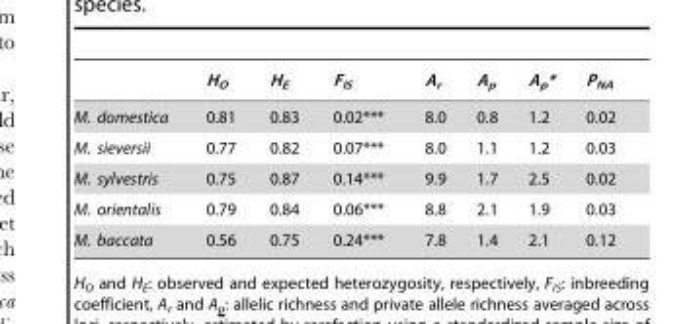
<table><thead><tr><td></td><td>H<sub>O</sub></td><td>H<sub>E</sub></td><td>F<sub>IS</sub></td><td>A<sub>r</sub></td><td>A<sub>p</sub></td><td>A<sub>p</sub>*</td><td>P<sub>NA</sub></td></tr></thead><tbody><tr><td>M. domestica</td><td>0.81</td><td>0.83</td><td>0.02***</td><td>8.0</td><td>0.8</td><td>1.2</td><td>0.02</td></tr><tr><td>M. sieversii</td><td>0.77</td><td>0.82</td><td>0.07***</td><td>8.0</td><td>1.1</td><td>1.2</td><td>0.03</td></tr><tr><td>M. sylvestris</td><td>0.75</td><td>0.87</td><td>0.14***</td><td>9.9</td><td>1.7</td><td>2.5</td><td>0.02</td></tr><tr><td>M. orientalis</td><td>0.79</td><td>0.84</td><td>0.06***</td><td>8.8</td><td>2.1</td><td>1.9</td><td>0.03</td></tr><tr><td>M. baccata</td><td>0.56</td><td>0.75</td><td>0.24***</td><td>7.8</td><td>1.4</td><td>2.1</td><td>0.12</td></tr></tbody></table>